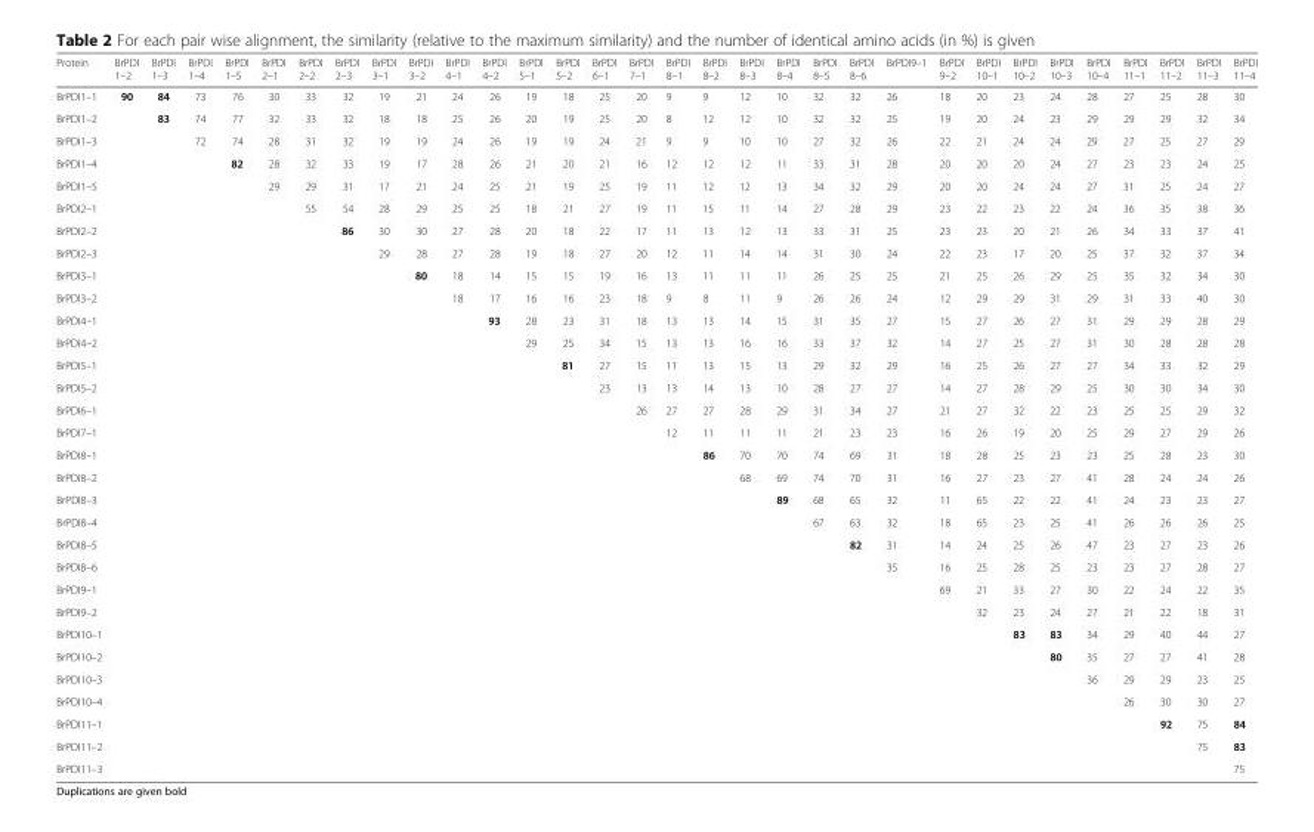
<table><thead><tr><td>Protein</td><td>BrPDI 1–2</td><td>BrPDI 1–3</td><td>BrPDI 1–4</td><td>BrPDI 1–5</td><td>BrPDI 2–1</td><td>BrPDI 2–2</td><td>BrPDI 2–3</td><td>BrPDI 3–1</td><td>BrPDI 3–2</td><td>BrPDI 4–1</td><td>BrPDI 4–2</td><td>BrPDI 5–1</td><td>BrPDI 5–2</td><td>BrPDI 6–1</td><td>BrPDI 7–1</td><td>BrPDI 8–1</td><td>BrPDI 8–2</td><td>BrPDI 8–3</td><td>BrPDI 8–4</td><td>BrPDI 8–5</td><td>BrPDI 8–6</td><td>BrPDI9–1</td><td>BrPDI 9–2</td><td>BrPDI 10–1</td><td>BrPDI 10–2</td><td>BrPDI 10–3</td><td>BrPDI 10–4</td><td>BrPDI 11–1</td><td>BrPDI 11–2</td><td>BrPDI 11–3</td><td>BrPDI 11–4</td></tr></thead><tbody><tr><td>BrPDI1–1</td><td>90</td><td>84</td><td>73</td><td>76</td><td>30</td><td>33</td><td>32</td><td>19</td><td>21</td><td>24</td><td>26</td><td>19</td><td>18</td><td>25</td><td>20</td><td>9</td><td>9</td><td>12</td><td>10</td><td>32</td><td>32</td><td>26</td><td>18</td><td>20</td><td>23</td><td>24</td><td>28</td><td>27</td><td>25</td><td>28</td><td>30</td></tr><tr><td>BrPDI1–2</td><td></td><td>83</td><td>74</td><td>77</td><td>32</td><td>33</td><td>32</td><td>18</td><td>18</td><td>25</td><td>26</td><td>20</td><td>19</td><td>25</td><td>20</td><td>8</td><td>12</td><td>12</td><td>10</td><td>32</td><td>32</td><td>25</td><td>19</td><td>20</td><td>24</td><td>23</td><td>29</td><td>29</td><td>29</td><td>32</td><td>34</td></tr><tr><td>BrPDI1–3</td><td></td><td></td><td>72</td><td>74</td><td>28</td><td>31</td><td>32</td><td>19</td><td>19</td><td>24</td><td>26</td><td>19</td><td>19</td><td>24</td><td>21</td><td>9</td><td>9</td><td>10</td><td>10</td><td>27</td><td>32</td><td>26</td><td>22</td><td>21</td><td>24</td><td>24</td><td>29</td><td>27</td><td>25</td><td>27</td><td>29</td></tr><tr><td>BrPDI1–4</td><td></td><td></td><td></td><td>82</td><td>28</td><td>32</td><td>33</td><td>19</td><td>17</td><td>28</td><td>26</td><td>21</td><td>20</td><td>21</td><td>16</td><td>12</td><td>12</td><td>12</td><td>11</td><td>33</td><td>31</td><td>28</td><td>20</td><td>20</td><td>20</td><td>24</td><td>27</td><td>23</td><td>23</td><td>24</td><td>25</td></tr><tr><td>BrPDI1–5</td><td></td><td></td><td></td><td></td><td>29</td><td>29</td><td>31</td><td>17</td><td>21</td><td>24</td><td>25</td><td>21</td><td>19</td><td>25</td><td>19</td><td>11</td><td>12</td><td>12</td><td>13</td><td>34</td><td>32</td><td>29</td><td>20</td><td>20</td><td>24</td><td>24</td><td>27</td><td>31</td><td>25</td><td>24</td><td>27</td></tr><tr><td>BrPDI2–1</td><td></td><td></td><td></td><td></td><td></td><td>55</td><td>54</td><td>28</td><td>29</td><td>25</td><td>25</td><td>18</td><td>21</td><td>27</td><td>19</td><td>11</td><td>15</td><td>11</td><td>14</td><td>27</td><td>28</td><td>29</td><td>23</td><td>22</td><td>23</td><td>22</td><td>24</td><td>36</td><td>35</td><td>38</td><td>36</td></tr><tr><td>BrPDI2–2</td><td></td><td></td><td></td><td></td><td></td><td></td><td>86</td><td>30</td><td>30</td><td>27</td><td>28</td><td>20</td><td>18</td><td>22</td><td>17</td><td>11</td><td>13</td><td>12</td><td>13</td><td>33</td><td>31</td><td>25</td><td>23</td><td>23</td><td>20</td><td>21</td><td>26</td><td>34</td><td>33</td><td>37</td><td>41</td></tr><tr><td>BrPDI2–3</td><td></td><td></td><td></td><td></td><td></td><td></td><td></td><td>29</td><td>28</td><td>27</td><td>28</td><td>19</td><td>18</td><td>27</td><td>20</td><td>12</td><td>11</td><td>14</td><td>14</td><td>31</td><td>30</td><td>24</td><td>22</td><td>23</td><td>17</td><td>20</td><td>25</td><td>37</td><td>32</td><td>37</td><td>34</td></tr><tr><td>BrPDI3–1</td><td></td><td></td><td></td><td></td><td></td><td></td><td></td><td></td><td>80</td><td>18</td><td>14</td><td>15</td><td>15</td><td>19</td><td>16</td><td>13</td><td>11</td><td>11</td><td>11</td><td>26</td><td>25</td><td>25</td><td>21</td><td>25</td><td>26</td><td>29</td><td>25</td><td>35</td><td>32</td><td>34</td><td>30</td></tr><tr><td>BrPDI3–2</td><td></td><td></td><td></td><td></td><td></td><td></td><td></td><td></td><td></td><td>18</td><td>17</td><td>16</td><td>16</td><td>23</td><td>18</td><td>9</td><td>8</td><td>11</td><td>9</td><td>26</td><td>26</td><td>24</td><td>12</td><td>29</td><td>29</td><td>31</td><td>29</td><td>31</td><td>33</td><td>40</td><td>30</td></tr><tr><td>BrPDI4–1</td><td></td><td></td><td></td><td></td><td></td><td></td><td></td><td></td><td></td><td></td><td>93</td><td>28</td><td>23</td><td>31</td><td>18</td><td>13</td><td>13</td><td>14</td><td>15</td><td>31</td><td>35</td><td>27</td><td>15</td><td>27</td><td>26</td><td>27</td><td>31</td><td>29</td><td>29</td><td>28</td><td>29</td></tr><tr><td>BrPDI4–2</td><td></td><td></td><td></td><td></td><td></td><td></td><td></td><td></td><td></td><td></td><td></td><td>29</td><td>25</td><td>34</td><td>15</td><td>13</td><td>13</td><td>16</td><td>16</td><td>33</td><td>37</td><td>32</td><td>14</td><td>27</td><td>25</td><td>27</td><td>31</td><td>30</td><td>28</td><td>28</td><td>28</td></tr><tr><td>BrPDI5–1</td><td></td><td></td><td></td><td></td><td></td><td></td><td></td><td></td><td></td><td></td><td></td><td></td><td>81</td><td>27</td><td>15</td><td>11</td><td>13</td><td>15</td><td>13</td><td>29</td><td>32</td><td>29</td><td>16</td><td>25</td><td>26</td><td>27</td><td>27</td><td>34</td><td>33</td><td>32</td><td>29</td></tr><tr><td>BrPDI5–2</td><td></td><td></td><td></td><td></td><td></td><td></td><td></td><td></td><td></td><td></td><td></td><td></td><td></td><td>23</td><td>13</td><td>13</td><td>14</td><td>13</td><td>10</td><td>28</td><td>27</td><td>27</td><td>14</td><td>27</td><td>28</td><td>29</td><td>25</td><td>30</td><td>30</td><td>34</td><td>30</td></tr><tr><td>BrPDI6–1</td><td></td><td></td><td></td><td></td><td></td><td></td><td></td><td></td><td></td><td></td><td></td><td></td><td></td><td></td><td>26</td><td>27</td><td>27</td><td>28</td><td>29</td><td>31</td><td>34</td><td>27</td><td>21</td><td>27</td><td>32</td><td>22</td><td>23</td><td>25</td><td>25</td><td>29</td><td>32</td></tr><tr><td>BrPDI7–1</td><td></td><td></td><td></td><td></td><td></td><td></td><td></td><td></td><td></td><td></td><td></td><td></td><td></td><td></td><td></td><td>12</td><td>11</td><td>11</td><td>11</td><td>21</td><td>23</td><td>23</td><td>16</td><td>26</td><td>19</td><td>20</td><td>25</td><td>29</td><td>27</td><td>29</td><td>26</td></tr><tr><td>BrPDI8–1</td><td></td><td></td><td></td><td></td><td></td><td></td><td></td><td></td><td></td><td></td><td></td><td></td><td></td><td></td><td></td><td></td><td>86</td><td>70</td><td>70</td><td>74</td><td>69</td><td>31</td><td>18</td><td>28</td><td>25</td><td>23</td><td>23</td><td>25</td><td>28</td><td>23</td><td>30</td></tr><tr><td>BrPDI8–2</td><td></td><td></td><td></td><td></td><td></td><td></td><td></td><td></td><td></td><td></td><td></td><td></td><td></td><td></td><td></td><td></td><td></td><td>68</td><td>69</td><td>74</td><td>70</td><td>31</td><td>16</td><td>27</td><td>23</td><td>27</td><td>41</td><td>28</td><td>24</td><td>24</td><td>26</td></tr><tr><td>BrPDI8–3</td><td></td><td></td><td></td><td></td><td></td><td></td><td></td><td></td><td></td><td></td><td></td><td></td><td></td><td></td><td></td><td></td><td></td><td></td><td>89</td><td>68</td><td>65</td><td>32</td><td>11</td><td>65</td><td>22</td><td>22</td><td>41</td><td>24</td><td>23</td><td>23</td><td>27</td></tr><tr><td>BrPDI8–4</td><td></td><td></td><td></td><td></td><td></td><td></td><td></td><td></td><td></td><td></td><td></td><td></td><td></td><td></td><td></td><td></td><td></td><td></td><td></td><td>67</td><td>63</td><td>32</td><td>18</td><td>65</td><td>23</td><td>25</td><td>41</td><td>26</td><td>26</td><td>26</td><td>25</td></tr><tr><td>BrPDI8–5</td><td></td><td></td><td></td><td></td><td></td><td></td><td></td><td></td><td></td><td></td><td></td><td></td><td></td><td></td><td></td><td></td><td></td><td></td><td></td><td></td><td>82</td><td>31</td><td>14</td><td>24</td><td>25</td><td>26</td><td>47</td><td>23</td><td>27</td><td>23</td><td>26</td></tr><tr><td>BrPDI8–6</td><td></td><td></td><td></td><td></td><td></td><td></td><td></td><td></td><td></td><td></td><td></td><td></td><td></td><td></td><td></td><td></td><td></td><td></td><td></td><td></td><td></td><td>35</td><td>16</td><td>25</td><td>28</td><td>25</td><td>23</td><td>23</td><td>27</td><td>28</td><td>27</td></tr><tr><td>BrPDI9–1</td><td></td><td></td><td></td><td></td><td></td><td></td><td></td><td></td><td></td><td></td><td></td><td></td><td></td><td></td><td></td><td></td><td></td><td></td><td></td><td></td><td></td><td></td><td>69</td><td>21</td><td>33</td><td>27</td><td>30</td><td>22</td><td>24</td><td>22</td><td>35</td></tr><tr><td>BrPDI9–2</td><td></td><td></td><td></td><td></td><td></td><td></td><td></td><td></td><td></td><td></td><td></td><td></td><td></td><td></td><td></td><td></td><td></td><td></td><td></td><td></td><td></td><td></td><td></td><td>32</td><td>23</td><td>24</td><td>27</td><td>21</td><td>22</td><td>18</td><td>31</td></tr><tr><td>BrPDI10–1</td><td></td><td></td><td></td><td></td><td></td><td></td><td></td><td></td><td></td><td></td><td></td><td></td><td></td><td></td><td></td><td></td><td></td><td></td><td></td><td></td><td></td><td></td><td></td><td></td><td>83</td><td>83</td><td>34</td><td>29</td><td>40</td><td>44</td><td>27</td></tr><tr><td>BrPDI10–2</td><td></td><td></td><td></td><td></td><td></td><td></td><td></td><td></td><td></td><td></td><td></td><td></td><td></td><td></td><td></td><td></td><td></td><td></td><td></td><td></td><td></td><td></td><td></td><td></td><td></td><td>80</td><td>35</td><td>27</td><td>27</td><td>41</td><td>28</td></tr><tr><td>BrPDI10–3</td><td></td><td></td><td></td><td></td><td></td><td></td><td></td><td></td><td></td><td></td><td></td><td></td><td></td><td></td><td></td><td></td><td></td><td></td><td></td><td></td><td></td><td></td><td></td><td></td><td></td><td></td><td>36</td><td>29</td><td>29</td><td>23</td><td>25</td></tr><tr><td>BrPDI10–4</td><td></td><td></td><td></td><td></td><td></td><td></td><td></td><td></td><td></td><td></td><td></td><td></td><td></td><td></td><td></td><td></td><td></td><td></td><td></td><td></td><td></td><td></td><td></td><td></td><td></td><td></td><td></td><td>26</td><td>30</td><td>30</td><td>27</td></tr><tr><td>BrPDI11–1</td><td></td><td></td><td></td><td></td><td></td><td></td><td></td><td></td><td></td><td></td><td></td><td></td><td></td><td></td><td></td><td></td><td></td><td></td><td></td><td></td><td></td><td></td><td></td><td></td><td></td><td></td><td></td><td></td><td>92</td><td>75</td><td>84</td></tr><tr><td>BrPDI11–2</td><td></td><td></td><td></td><td></td><td></td><td></td><td></td><td></td><td></td><td></td><td></td><td></td><td></td><td></td><td></td><td></td><td></td><td></td><td></td><td></td><td></td><td></td><td></td><td></td><td></td><td></td><td></td><td></td><td></td><td>75</td><td>83</td></tr><tr><td>BrPDI11–3</td><td></td><td></td><td></td><td></td><td></td><td></td><td></td><td></td><td></td><td></td><td></td><td></td><td></td><td></td><td></td><td></td><td></td><td></td><td></td><td></td><td></td><td></td><td></td><td></td><td></td><td></td><td></td><td></td><td></td><td></td><td>75</td></tr></tbody></table>